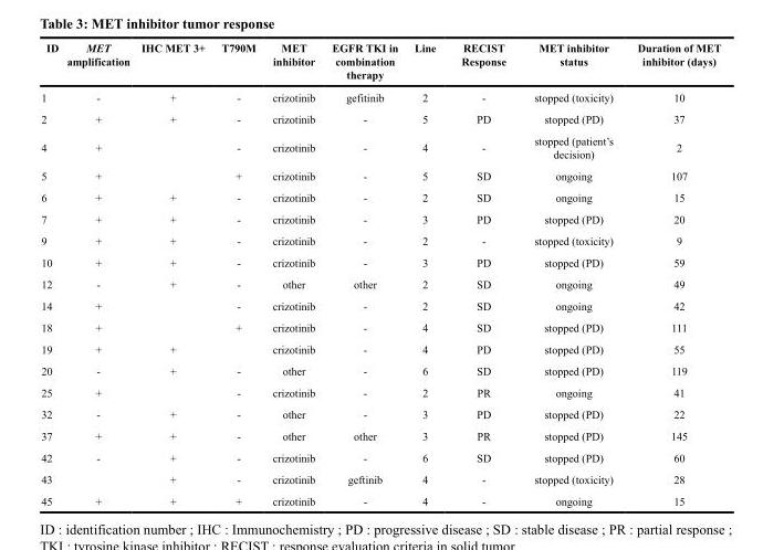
<table><thead><tr><td>ID</td><td>MET amplification</td><td>IHC MET 3+</td><td>T790M</td><td>MET inhibitor</td><td>EGFR TKI in combination therapy</td><td>Line</td><td>RECIST Response</td><td>MET inhibitor status</td><td>Duration of MET inhibitor (days)</td></tr></thead><tbody><tr><td>1</td><td>-</td><td>+</td><td>-</td><td>crizotinib</td><td>gefitinib</td><td>2</td><td>-</td><td>stopped (toxicity)</td><td>10</td></tr><tr><td>2</td><td>+</td><td>+</td><td>-</td><td>crizotinib</td><td>-</td><td>5</td><td>PD</td><td>stopped (PD)</td><td>37</td></tr><tr><td>4</td><td>+</td><td></td><td>-</td><td>crizotinib</td><td>-</td><td>4</td><td>-</td><td>stopped (patient’s decision)</td><td>2</td></tr><tr><td>5</td><td>+</td><td></td><td>+</td><td>crizotinib</td><td>-</td><td>5</td><td>SD</td><td>ongoing</td><td>107</td></tr><tr><td>6</td><td>+</td><td>+</td><td>-</td><td>crizotinib</td><td>-</td><td>2</td><td>SD</td><td>ongoing</td><td>15</td></tr><tr><td>7</td><td>+</td><td>+</td><td>-</td><td>crizotinib</td><td>-</td><td>3</td><td>PD</td><td>stopped (PD)</td><td>20</td></tr><tr><td>9</td><td>+</td><td>+</td><td>-</td><td>crizotinib</td><td>-</td><td>2</td><td>-</td><td>stopped (toxicity)</td><td>9</td></tr><tr><td>10</td><td>+</td><td>+</td><td>-</td><td>crizotinib</td><td>-</td><td>3</td><td>PD</td><td>stopped (PD)</td><td>59</td></tr><tr><td>12</td><td>-</td><td>+</td><td>-</td><td>other</td><td>other</td><td>2</td><td>SD</td><td>ongoing</td><td>49</td></tr><tr><td>14</td><td>+</td><td></td><td>-</td><td>crizotinib</td><td>-</td><td>2</td><td>SD</td><td>ongoing</td><td>42</td></tr><tr><td>18</td><td>+</td><td></td><td>+</td><td>crizotinib</td><td>-</td><td>4</td><td>SD</td><td>stopped (PD)</td><td>111</td></tr><tr><td>19</td><td>+</td><td>+</td><td></td><td>crizotinib</td><td>-</td><td>4</td><td>PD</td><td>stopped (PD)</td><td>55</td></tr><tr><td>20</td><td>-</td><td>+</td><td>-</td><td>other</td><td>-</td><td>6</td><td>SD</td><td>stopped (PD)</td><td>119</td></tr><tr><td>25</td><td>+</td><td></td><td>-</td><td>crizotinib</td><td>-</td><td>2</td><td>PR</td><td>ongoing</td><td>41</td></tr><tr><td>32</td><td>-</td><td>+</td><td>-</td><td>other</td><td>-</td><td>3</td><td>PD</td><td>stopped (PD)</td><td>22</td></tr><tr><td>37</td><td>+</td><td>+</td><td>-</td><td>other</td><td>other</td><td>3</td><td>PR</td><td>stopped (PD)</td><td>145</td></tr><tr><td>42</td><td>-</td><td>+</td><td>-</td><td>crizotinib</td><td>-</td><td>6</td><td>SD</td><td>stopped (PD)</td><td>60</td></tr><tr><td>43</td><td></td><td>+</td><td>-</td><td>crizotinib</td><td>geftinib</td><td>4</td><td>-</td><td>stopped (toxicity)</td><td>28</td></tr><tr><td>45</td><td>+</td><td>+</td><td>+</td><td>crizotinib</td><td>-</td><td>4</td><td>-</td><td>ongoing</td><td>15</td></tr></tbody></table>